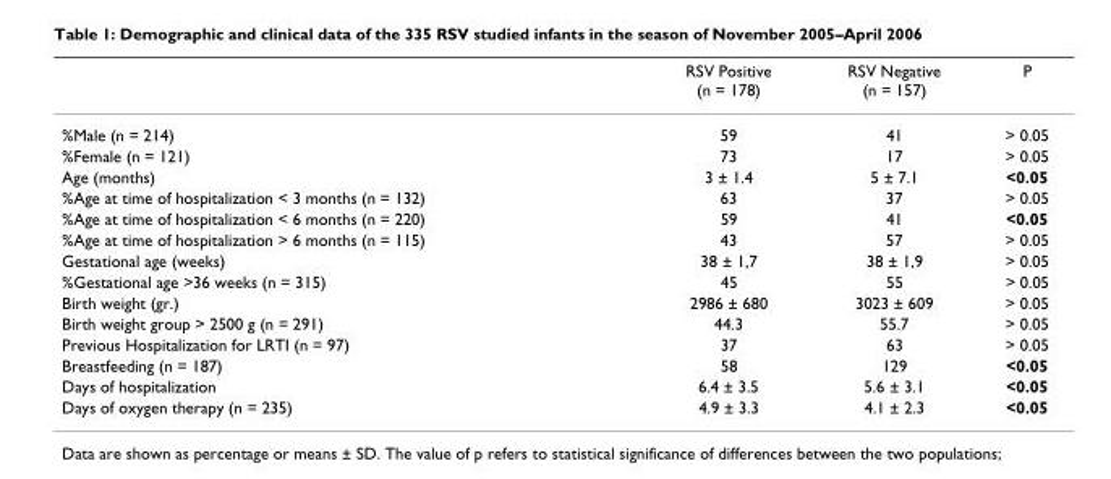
<table><thead><tr><td></td><td>RSV Positive (n = 178)</td><td>RSV Negative (n = 157)</td><td>P</td></tr></thead><tbody><tr><td>%Male (n = 214)</td><td>59</td><td>41</td><td>&gt; 0.05</td></tr><tr><td>%Female (n = 121)</td><td>73</td><td>17</td><td>&gt; 0.05</td></tr><tr><td>Age (months)</td><td>3 ± 1.4</td><td>5 ± 7.1</td><td>&lt;0.05</td></tr><tr><td>%Age at time of hospitalization &lt; 3 months (n = 132)</td><td>63</td><td>37</td><td>&gt; 0.05</td></tr><tr><td>%Age at time of hospitalization &lt; 6 months (n = 220)</td><td>59</td><td>41</td><td>&lt;0.05</td></tr><tr><td>%Age at time of hospitalization &gt; 6 months (n = 115)</td><td>43</td><td>57</td><td>&gt; 0.05</td></tr><tr><td>Gestational age (weeks)</td><td>38 ± 1,7</td><td>38 ± 1,9</td><td>&gt; 0.05</td></tr><tr><td>%Gestational age &gt;36 weeks (n = 315)</td><td>45</td><td>55</td><td>&gt; 0.05</td></tr><tr><td>Birth weight (gr.)</td><td>2986 ± 680</td><td>3023 ± 609</td><td>&gt; 0.05</td></tr><tr><td>Birth weight group &gt; 2500 g (n = 291)</td><td>44.3</td><td>55.7</td><td>&gt; 0.05</td></tr><tr><td>Previous Hospitalization for LRTI (n = 97)</td><td>37</td><td>63</td><td>&gt; 0.05</td></tr><tr><td>Breastfeeding (n = 187)</td><td>58</td><td>129</td><td>&lt;0.05</td></tr><tr><td>Days of hospitalization</td><td>6.4 ± 3.5</td><td>5.6 ± 3.1</td><td>&lt;0.05</td></tr><tr><td>Days of oxygen therapy (n = 235)</td><td>4.9 ± 3.3</td><td>4.1 ± 2.3</td><td>&lt;0.05</td></tr></tbody></table>